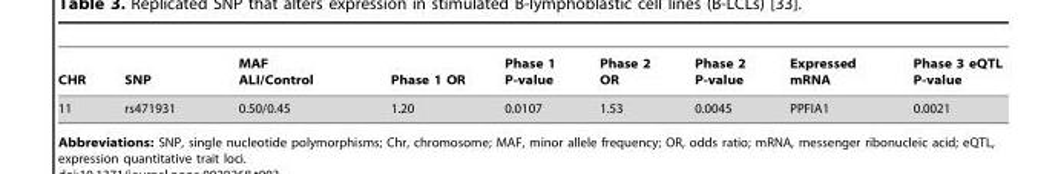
<table><thead><tr><td>CHR</td><td>SNP</td><td>MAF ALI/Control</td><td>Phase 1 OR</td><td>Phase 1 P-value</td><td>Phase 2 OR</td><td>Phase 2 P-value</td><td>Expressed mRNA</td><td>Phase 3 eQTL P-value</td></tr></thead><tbody><tr><td>11</td><td>rs471931</td><td>0.50/0.45</td><td>1.20</td><td>0.0107</td><td>1.53</td><td>0.0045</td><td>PPFIA1</td><td>0.0021</td></tr></tbody></table>